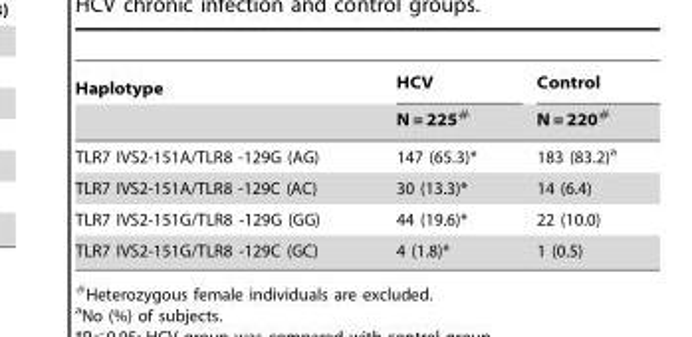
<table><thead><tr><td rowspan="2">Haplotype</td><td rowspan="2">HCV N = 225#</td><td rowspan="2">Control N = 220#</td></tr><tr></tr></thead><tbody><tr><td>TLR7 IVS2-151A/TLR8 -129G (AG)</td><td>147 (65.3)*</td><td>183 (83.2)<sup>a</sup></td></tr><tr><td>TLR7 IVS2-151A/TLR8 -129C (AC)</td><td>30 (13.3)*</td><td>14 (6.4)</td></tr><tr><td>TLR7 IVS2-151G/TLR8 -129G (GG)</td><td>44 (19.6)*</td><td>22 (10.0)</td></tr><tr><td>TLR7 IVS2-151G/TLR8 -129C (GC)</td><td>4 (1.8)*</td><td>1 (0.5)</td></tr></tbody></table>